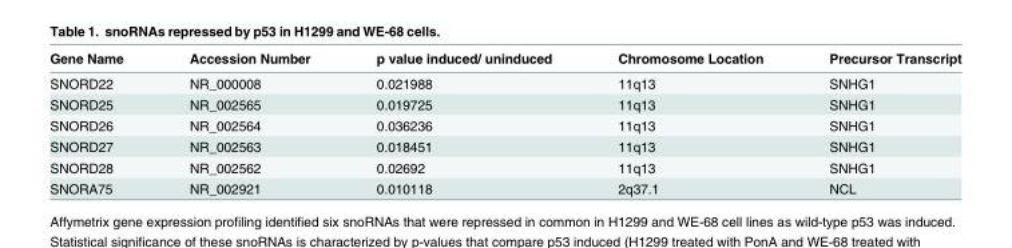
<table><thead><tr><td>Gene Name</td><td>Accession Number</td><td>p value induced/ uninduced</td><td>Chromosome Location</td><td>Precursor Transcript</td></tr></thead><tbody><tr><td>SNORD22</td><td>NR_000008</td><td>0.021988</td><td>11q13</td><td>SNHG1</td></tr><tr><td>SNORD25</td><td>NR_002565</td><td>0.019725</td><td>11q13</td><td>SNHG1</td></tr><tr><td>SNORD26</td><td>NR_002564</td><td>0.036236</td><td>11q13</td><td>SNHG1</td></tr><tr><td>SNORD27</td><td>NR_002563</td><td>0.018451</td><td>11q13</td><td>SNHG1</td></tr><tr><td>SNORD28</td><td>NR_002562</td><td>0.02692</td><td>11q13</td><td>SNHG1</td></tr><tr><td>SNORA75</td><td>NR_002921</td><td>0.010118</td><td>2q37.1</td><td>NCL</td></tr></tbody></table>